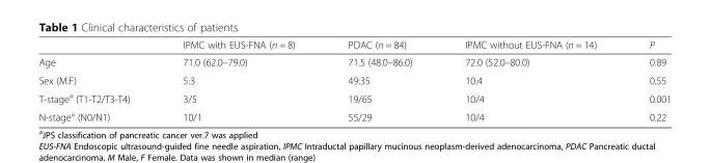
<table><thead><tr><td></td><td>IPMC with EUS-FNA (n = 8)</td><td>PDAC (n = 84)</td><td>IPMC without EUS-FNA (n = 14)</td><td>P</td></tr></thead><tbody><tr><td>Age</td><td>71.0 (62.0–79.0)</td><td>71.5 (48.0–86.0)</td><td>72.0 (52.0–80.0)</td><td>0.89</td></tr><tr><td>Sex (M:F)</td><td>5:3</td><td>49:35</td><td>10:4</td><td>0.55</td></tr><tr><td>T-stage<sup>a</sup> (T1-T2/T3-T4)</td><td>3/5</td><td>19/65</td><td>10/4</td><td>0.001</td></tr><tr><td>N-stage<sup>a</sup> (N0/N1)</td><td>10/1</td><td>55/29</td><td>10/4</td><td>0.22</td></tr></tbody></table>